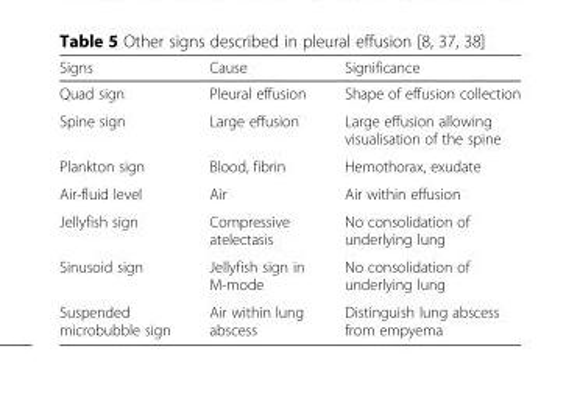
<table><thead><tr><td>Signs</td><td>Cause</td><td>Significance</td></tr></thead><tbody><tr><td>Quad sign</td><td>Pleural effusion</td><td>Shape of effusion collection</td></tr><tr><td>Spine sign</td><td>Large effusion</td><td>Large effusion allowing visualisation of the spine</td></tr><tr><td>Plankton sign</td><td>Blood, fibrin</td><td>Hemothorax, exudate</td></tr><tr><td>Air-fluid level</td><td>Air</td><td>Air within effusion</td></tr><tr><td>Jellyfish sign</td><td>Compressive atelectasis</td><td>No consolidation of underlying lung</td></tr><tr><td>Sinusoid sign</td><td>Jellyfish sign in M-mode</td><td>No consolidation of underlying lung</td></tr><tr><td>Suspended microbubble sign</td><td>Air within lung abscess</td><td>Distinguish lung abscess from empyema</td></tr></tbody></table>